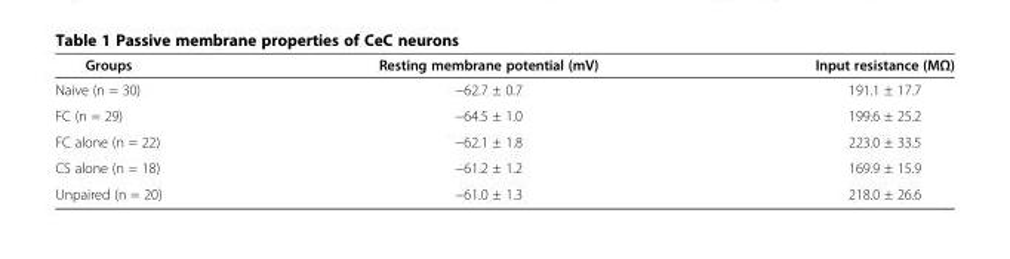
<table><thead><tr><td>Groups</td><td>Resting membrane potential (mV)</td><td>Input resistance (MΩ)</td></tr></thead><tbody><tr><td>Naive (n = 30)</td><td>−62.7 ± 0.7</td><td>191.1 ± 17.7</td></tr><tr><td>FC (n = 29)</td><td>−64.5 ± 1.0</td><td>199.6 ± 25.2</td></tr><tr><td>FC alone (n = 22)</td><td>−62.1 ± 1.8</td><td>223.0 ± 33.5</td></tr><tr><td>CS alone (n = 18)</td><td>−61.2 ± 1.2</td><td>169.9 ± 15.9</td></tr><tr><td>Unpaired (n = 20)</td><td>−61.0 ± 1.3</td><td>218.0 ± 26.6</td></tr></tbody></table>